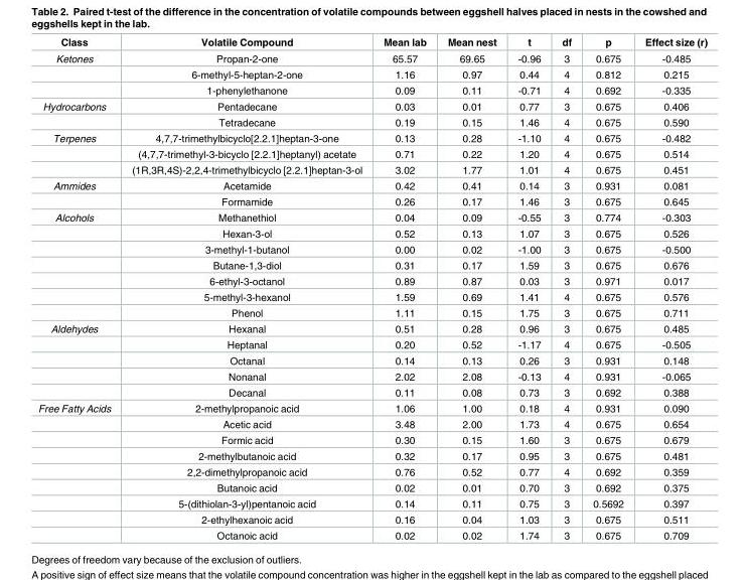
<table><thead><tr><td>Class</td><td>Volatile Compound</td><td>Mean lab</td><td>Mean nest</td><td>t</td><td>df</td><td>p</td><td>Effect size (r)</td></tr></thead><tbody><tr><td rowspan="3">Ketones</td><td>Propan-2-one</td><td>65.57</td><td>69.65</td><td>-0.96</td><td>3</td><td>0.675</td><td>-0.485</td></tr><tr><td>6-methyl-5-heptan-2-one</td><td>1.16</td><td>0.97</td><td>0.44</td><td>4</td><td>0.812</td><td>0.215</td></tr><tr><td>1-phenylethanone</td><td>0.09</td><td>0.11</td><td>-0.71</td><td>4</td><td>0.692</td><td>-0.335</td></tr><tr><td rowspan="2">Hydrocarbons</td><td>Pentadecane</td><td>0.03</td><td>0.01</td><td>0.77</td><td>3</td><td>0.675</td><td>0.406</td></tr><tr><td>Tetradecane</td><td>0.19</td><td>0.15</td><td>1.46</td><td>4</td><td>0.675</td><td>0.590</td></tr><tr><td rowspan="3">Terpenes</td><td>4,7,7-trimethylbicyclo[2.2.1]heptan-3-one</td><td>0.13</td><td>0.28</td><td>-1.10</td><td>4</td><td>0.675</td><td>-0.482</td></tr><tr><td>(4,7,7-trimethyl-3-bicyclo [2.2.1]heptanyl) acetate</td><td>0.71</td><td>0.22</td><td>1.20</td><td>4</td><td>0.675</td><td>0.514</td></tr><tr><td>(1R,3R,4S)-2,2,4-trimethylbicyclo [2.2.1]heptan-3-ol</td><td>3.02</td><td>1.77</td><td>1.01</td><td>4</td><td>0.675</td><td>0.451</td></tr><tr><td rowspan="2">Ammides</td><td>Acetamide</td><td>0.42</td><td>0.41</td><td>0.14</td><td>3</td><td>0.931</td><td>0.081</td></tr><tr><td>Formamide</td><td>0.26</td><td>0.17</td><td>1.46</td><td>3</td><td>0.675</td><td>0.645</td></tr><tr><td rowspan="7">Alcohols</td><td>Methanethiol</td><td>0.04</td><td>0.09</td><td>-0.55</td><td>3</td><td>0.774</td><td>-0.303</td></tr><tr><td>Hexan-3-ol</td><td>0.52</td><td>0.13</td><td>1.07</td><td>3</td><td>0.675</td><td>0.526</td></tr><tr><td>3-methyl-1-butanol</td><td>0.00</td><td>0.02</td><td>-1.00</td><td>3</td><td>0.675</td><td>-0.500</td></tr><tr><td>Butane-1,3-diol</td><td>0.31</td><td>0.17</td><td>1.59</td><td>3</td><td>0.675</td><td>0.676</td></tr><tr><td>6-ethyl-3-octanol</td><td>0.89</td><td>0.87</td><td>0.03</td><td>3</td><td>0.971</td><td>0.017</td></tr><tr><td>5-methyl-3-hexanol</td><td>1.59</td><td>0.69</td><td>1.41</td><td>4</td><td>0.675</td><td>0.576</td></tr><tr><td>Phenol</td><td>1.11</td><td>0.15</td><td>1.75</td><td>3</td><td>0.675</td><td>0.711</td></tr><tr><td rowspan="5">Aldehydes</td><td>Hexanal</td><td>0.51</td><td>0.28</td><td>0.96</td><td>3</td><td>0.675</td><td>0.485</td></tr><tr><td>Heptanal</td><td>0.20</td><td>0.52</td><td>-1.17</td><td>4</td><td>0.675</td><td>-0.505</td></tr><tr><td>Octanal</td><td>0.14</td><td>0.13</td><td>0.26</td><td>3</td><td>0.931</td><td>0.148</td></tr><tr><td>Nonanal</td><td>2.02</td><td>2.08</td><td>-0.13</td><td>4</td><td>0.931</td><td>-0.065</td></tr><tr><td>Decanal</td><td>0.11</td><td>0.08</td><td>0.73</td><td>3</td><td>0.692</td><td>0.388</td></tr><tr><td rowspan="9">Free Fatty Acids</td><td>2-methylpropanoic acid</td><td>1.06</td><td>1.00</td><td>0.18</td><td>4</td><td>0.931</td><td>0.090</td></tr><tr><td>Acetic acid</td><td>3.48</td><td>2.00</td><td>1.73</td><td>4</td><td>0.675</td><td>0.654</td></tr><tr><td>Formic acid</td><td>0.30</td><td>0.15</td><td>1.60</td><td>3</td><td>0.675</td><td>0.679</td></tr><tr><td>2-methylbutanoic acid</td><td>0.32</td><td>0.17</td><td>0.95</td><td>3</td><td>0.675</td><td>0.481</td></tr><tr><td>2,2-dimethylpropanoic acid</td><td>0.76</td><td>0.52</td><td>0.77</td><td>4</td><td>0.692</td><td>0.359</td></tr><tr><td>Butanoic acid</td><td>0.02</td><td>0.01</td><td>0.70</td><td>3</td><td>0.692</td><td>0.375</td></tr><tr><td>5-(dithiolan-3-yl)pentanoic acid</td><td>0.14</td><td>0.11</td><td>0.75</td><td>3</td><td>0.5692</td><td>0.397</td></tr><tr><td>2-ethylhexanoic acid</td><td>0.16</td><td>0.04</td><td>1.03</td><td>3</td><td>0.675</td><td>0.511</td></tr><tr><td>Octanoic acid</td><td>0.02</td><td>0.02</td><td>1.74</td><td>3</td><td>0.675</td><td>0.709</td></tr></tbody></table>